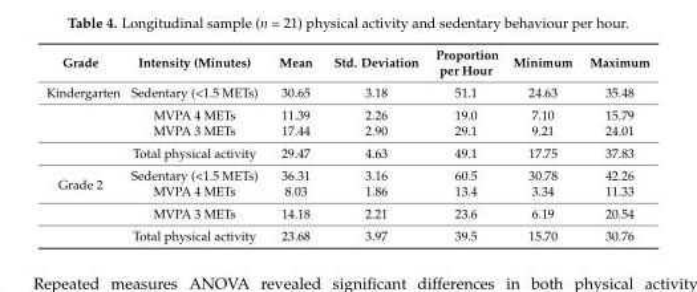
<table><thead><tr><td>Grade</td><td>Intensity (Minutes)</td><td>Mean</td><td>Std. Deviation</td><td>Proportion per Hour</td><td>Minimum</td><td>Maximum</td></tr></thead><tbody><tr><td rowspan="4">Kindergarten</td><td>Sedentary (&lt;1.5 METs)</td><td>30.65</td><td>3.18</td><td>51.1</td><td>24.63</td><td>35.48</td></tr><tr><td>MVPA 4 METs</td><td>11.39</td><td>2.26</td><td>19.0</td><td>7.10</td><td>15.79</td></tr><tr><td>MVPA 3 METs</td><td>17.44</td><td>2.90</td><td>29.1</td><td>9.21</td><td>24.01</td></tr><tr><td>Total physical activity</td><td>29.47</td><td>4.63</td><td>49.1</td><td>17.75</td><td>37.83</td></tr><tr><td rowspan="4">Grade 2</td><td>Sedentary (&lt;1.5 METs)</td><td>36.31</td><td>3.16</td><td>60.5</td><td>30.78</td><td>42.26</td></tr><tr><td>MVPA 4 METs</td><td>8.03</td><td>1.86</td><td>13.4</td><td>3.34</td><td>11.33</td></tr><tr><td>MVPA 3 METs</td><td>14.18</td><td>2.21</td><td>23.6</td><td>6.19</td><td>20.54</td></tr><tr><td>Total physical activity</td><td>23.68</td><td>3.97</td><td>39.5</td><td>15.70</td><td>30.76</td></tr></tbody></table>